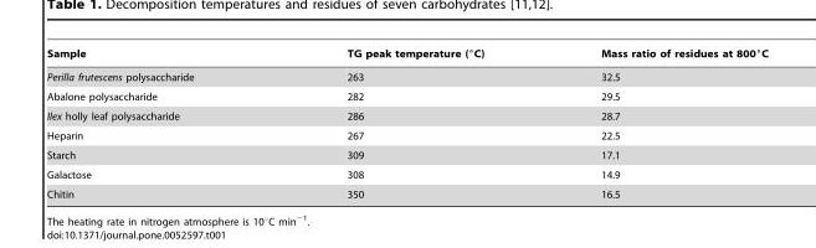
<table><thead><tr><td>Sample</td><td>TG peak temperature (°C)</td><td>Mass ratio of residues at 800°C</td></tr></thead><tbody><tr><td>Perilla frutescens polysaccharide</td><td>263</td><td>32.5</td></tr><tr><td>Abalone polysaccharide</td><td>282</td><td>29.5</td></tr><tr><td>Ilex holly leaf polysaccharide</td><td>286</td><td>28.7</td></tr><tr><td>Heparin</td><td>267</td><td>22.5</td></tr><tr><td>Starch</td><td>309</td><td>17.1</td></tr><tr><td>Galactose</td><td>308</td><td>14.9</td></tr><tr><td>Chitin</td><td>350</td><td>16.5</td></tr></tbody></table>